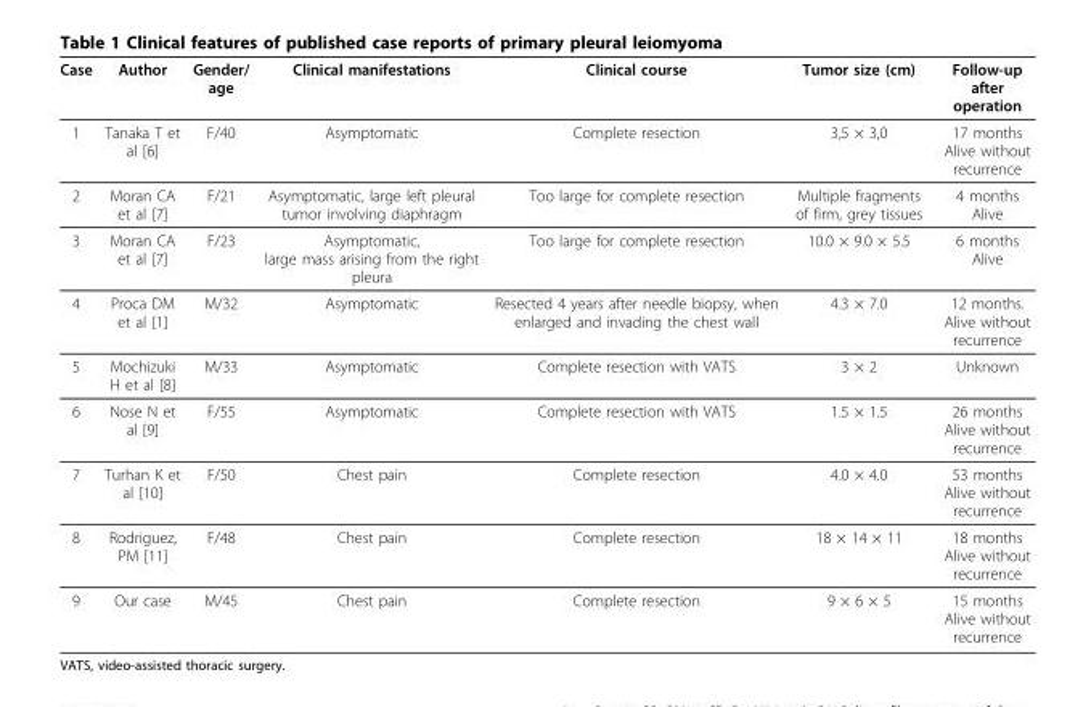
<table><thead><tr><td>Case</td><td>Author</td><td>Gender/ age</td><td>Clinical manifestations</td><td>Clinical course</td><td>Tumor size (cm)</td><td>Follow-up after operation</td></tr></thead><tbody><tr><td>1</td><td>Tanaka T et al [6]</td><td>F/40</td><td>Asymptomatic</td><td>Complete resection</td><td>3,5 × 3,0</td><td>17 months Alive without recurrence</td></tr><tr><td>2</td><td>Moran CA et al [7]</td><td>F/21</td><td>Asymptomatic, large left pleural tumor involving diaphragm</td><td>Too large for complete resection</td><td>Multiple fragments of firm, grey tissues</td><td>4 months Alive</td></tr><tr><td>3</td><td>Moran CA et al [7]</td><td>F/23</td><td>Asymptomatic, large mass arising from the right pleura</td><td>Too large for complete resection</td><td>10.0 × 9.0 × 5.5</td><td>6 months Alive</td></tr><tr><td>4</td><td>Proca DM et al [1]</td><td>M/32</td><td>Asymptomatic</td><td>Resected 4 years after needle biopsy, when enlarged and invading the chest wall</td><td>4.3 × 7.0</td><td>12 months. Alive without recurrence</td></tr><tr><td>5</td><td>Mochizuki H et al [8]</td><td>M/33</td><td>Asymptomatic</td><td>Complete resection with VATS</td><td>3 × 2</td><td>Unknown</td></tr><tr><td>6</td><td>Nose N et al [9]</td><td>F/55</td><td>Asymptomatic</td><td>Complete resection with VATS</td><td>1.5 × 1.5</td><td>26 months Alive without recurrence</td></tr><tr><td>7</td><td>Turhan K et al [10]</td><td>F/50</td><td>Chest pain</td><td>Complete resection</td><td>4.0 × 4.0</td><td>53 months Alive without recurrence</td></tr><tr><td>8</td><td>Rodriguez, PM [11]</td><td>F/48</td><td>Chest pain</td><td>Complete resection</td><td>18 × 14 × 11</td><td>18 months Alive without recurrence</td></tr><tr><td>9</td><td>Our case</td><td>M/45</td><td>Chest pain</td><td>Complete resection</td><td>9 × 6 × 5</td><td>15 months Alive without recurrence</td></tr></tbody></table>